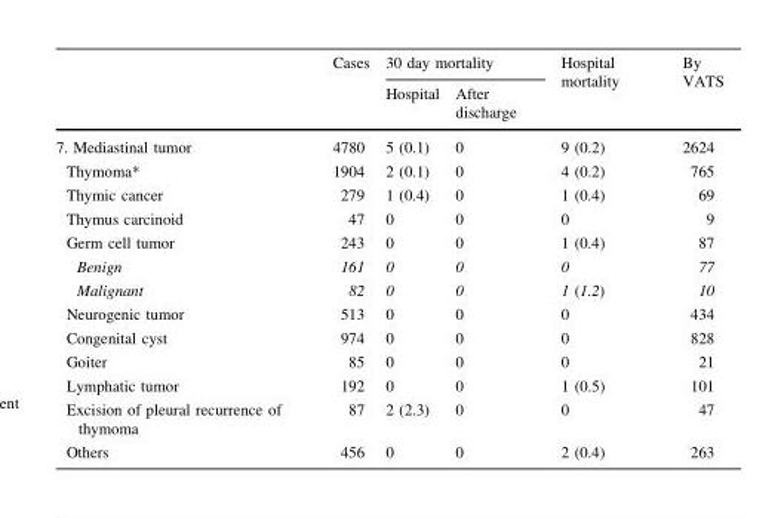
<table><thead><tr><td rowspan="2"></td><td rowspan="2">Cases</td><td colspan="2">30 day mortality</td><td rowspan="2">Hospital mortality</td><td rowspan="2">By VATS</td></tr><tr><td>Hospital</td><td>After discharge</td></tr></thead><tbody><tr><td>7. Mediastinal tumor</td><td>4780</td><td>5 (0.1)</td><td>0</td><td>9 (0.2)</td><td>2624</td></tr><tr><td>Thymoma*</td><td>1904</td><td>2 (0.1)</td><td>0</td><td>4 (0.2)</td><td>765</td></tr><tr><td>Thymic cancer</td><td>279</td><td>1 (0.4)</td><td>0</td><td>1 (0.4)</td><td>69</td></tr><tr><td>Thymus carcinoid</td><td>47</td><td>0</td><td>0</td><td>0</td><td>9</td></tr><tr><td>Germ cell tumor</td><td>243</td><td>0</td><td>0</td><td>1 (0.4)</td><td>87</td></tr><tr><td>Benign</td><td>161</td><td>0</td><td>0</td><td>0</td><td>77</td></tr><tr><td>Malignant</td><td>82</td><td>0</td><td>0</td><td>1 (1.2)</td><td>10</td></tr><tr><td>Neurogenic tumor</td><td>513</td><td>0</td><td>0</td><td>0</td><td>434</td></tr><tr><td>Congenital cyst</td><td>974</td><td>0</td><td>0</td><td>0</td><td>828</td></tr><tr><td>Goiter</td><td>85</td><td>0</td><td>0</td><td>0</td><td>21</td></tr><tr><td>Lymphatic tumor</td><td>192</td><td>0</td><td>0</td><td>1 (0.5)</td><td>101</td></tr><tr><td>Excision of pleural recurrence of thymoma</td><td>87</td><td>2 (2.3)</td><td>0</td><td>0</td><td>47</td></tr><tr><td>Others</td><td>456</td><td>0</td><td>0</td><td>2 (0.4)</td><td>263</td></tr></tbody></table>